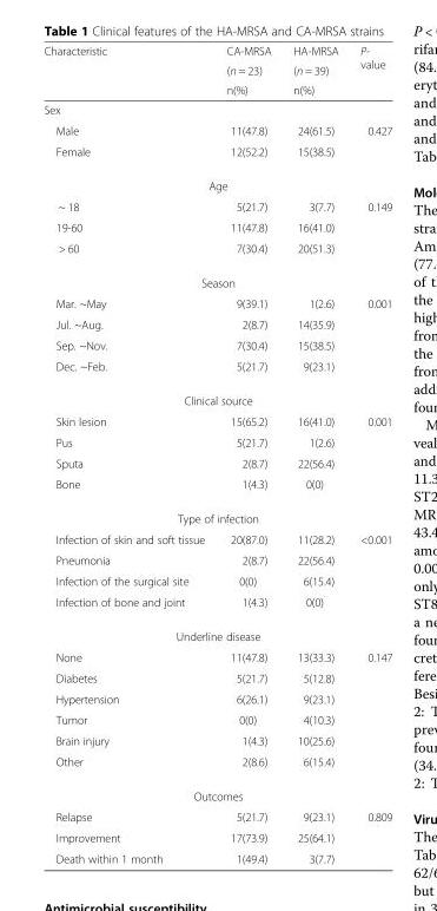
<table><thead><tr><td rowspan="3">Characteristic</td><td rowspan="3">CA-MRSA (n = 23) n(%)</td><td rowspan="3">HA-MRSA (n = 39) n(%)</td><td rowspan="3">P- value</td></tr><tr></tr><tr></tr></thead><tbody><tr><td colspan="4">Sex</td></tr><tr><td>Male</td><td>11(47.8)</td><td>24(61.5)</td><td rowspan="2">0.427</td></tr><tr><td>Female</td><td>12(52.2)</td><td>15(38.5)</td></tr><tr><td colspan="4">Age</td></tr><tr><td>~ 18</td><td>5(21.7)</td><td>3(7.7)</td><td rowspan="3">0.149</td></tr><tr><td>19-60</td><td>11(47.8)</td><td>16(41.0)</td></tr><tr><td>&gt; 60</td><td>7(30.4)</td><td>20(51.3)</td></tr><tr><td colspan="4">Season</td></tr><tr><td>Mar. ~May</td><td>9(39.1)</td><td>1(2.6)</td><td rowspan="4">0.001</td></tr><tr><td>Jul. ~Aug.</td><td>2(8.7)</td><td>14(35.9)</td></tr><tr><td>Sep. ~Nov.</td><td>7(30.4)</td><td>15(38.5)</td></tr><tr><td>Dec. ~Feb.</td><td>5(21.7)</td><td>9(23.1)</td></tr><tr><td colspan="4">Clinical source</td></tr><tr><td>Skin lesion</td><td>15(65.2)</td><td>16(41.0)</td><td rowspan="4">0.001</td></tr><tr><td>Pus</td><td>5(21.7)</td><td>1(2.6)</td></tr><tr><td>Sputa</td><td>2(8.7)</td><td>22(56.4)</td></tr><tr><td>Bone</td><td>1(4.3)</td><td>0(0)</td></tr><tr><td colspan="4">Type of infection</td></tr><tr><td>Infection of skin and soft tissue</td><td>20(87.0)</td><td>11(28.2)</td><td rowspan="4">&lt;0.001</td></tr><tr><td>Pneumonia</td><td>2(8.7)</td><td>22(56.4)</td></tr><tr><td>Infection of the surgical site</td><td>0(0)</td><td>6(15.4)</td></tr><tr><td>Infection of bone and joint</td><td>1(4.3)</td><td>0(0)</td></tr><tr><td colspan="4">Underline disease</td></tr><tr><td>None</td><td>11(47.8)</td><td>13(33.3)</td><td rowspan="6">0.147</td></tr><tr><td>Diabetes</td><td>5(21.7)</td><td>5(12.8)</td></tr><tr><td>Hypertension</td><td>6(26.1)</td><td>9(23.1)</td></tr><tr><td>Tumor</td><td>0(0)</td><td>4(10.3)</td></tr><tr><td>Brain injury</td><td>1(4.3)</td><td>10(25.6)</td></tr><tr><td>Other</td><td>2(8.6)</td><td>6(15.4)</td></tr><tr><td colspan="4">Outcomes</td></tr><tr><td>Relapse</td><td>5(21.7)</td><td>9(23.1)</td><td rowspan="3">0.809</td></tr><tr><td>Improvement</td><td>17(73.9)</td><td>25(64.1)</td></tr><tr><td>Death within 1 month</td><td>1(49.4)</td><td>3(7.7)</td></tr></tbody></table>